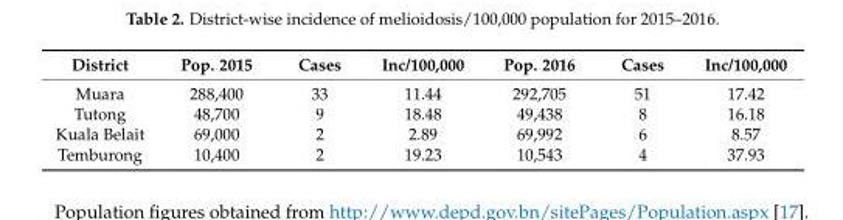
<table><thead><tr><td>District</td><td>Pop. 2015</td><td>Cases</td><td>Inc/100,000</td><td>Pop. 2016</td><td>Cases</td><td>Inc/100,000</td></tr></thead><tbody><tr><td>Muara</td><td>288,400</td><td>33</td><td>11.44</td><td>292,705</td><td>51</td><td>17.42</td></tr><tr><td>Tutong</td><td>48,700</td><td>9</td><td>18.48</td><td>49,438</td><td>8</td><td>16.18</td></tr><tr><td>Kuala Belait</td><td>69,000</td><td>2</td><td>2.89</td><td>69,992</td><td>6</td><td>8.57</td></tr><tr><td>Temburong</td><td>10,400</td><td>2</td><td>19.23</td><td>10,543</td><td>4</td><td>37.93</td></tr></tbody></table>